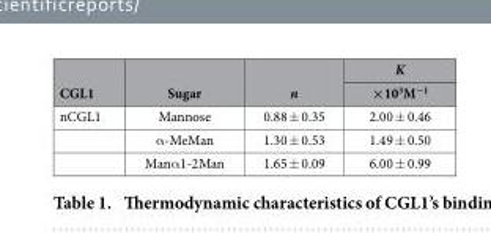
<table><thead><tr><td rowspan="2">CGL1</td><td rowspan="2">Sugar</td><td rowspan="2">n</td><td rowspan="2">K × 10<sup>3</sup>M<sup>−1</sup></td></tr><tr></tr></thead><tbody><tr><td rowspan="3">nCGL1</td><td>Mannose</td><td>0.88 ± 0.35</td><td>2.00 ± 0.46</td></tr><tr><td>α -MeMan</td><td>1.30 ± 0.53</td><td>1.49 ± 0.50</td></tr><tr><td>Manα 1-2Man</td><td>1.65 ± 0.09</td><td>6.00 ± 0.99</td></tr></tbody></table>